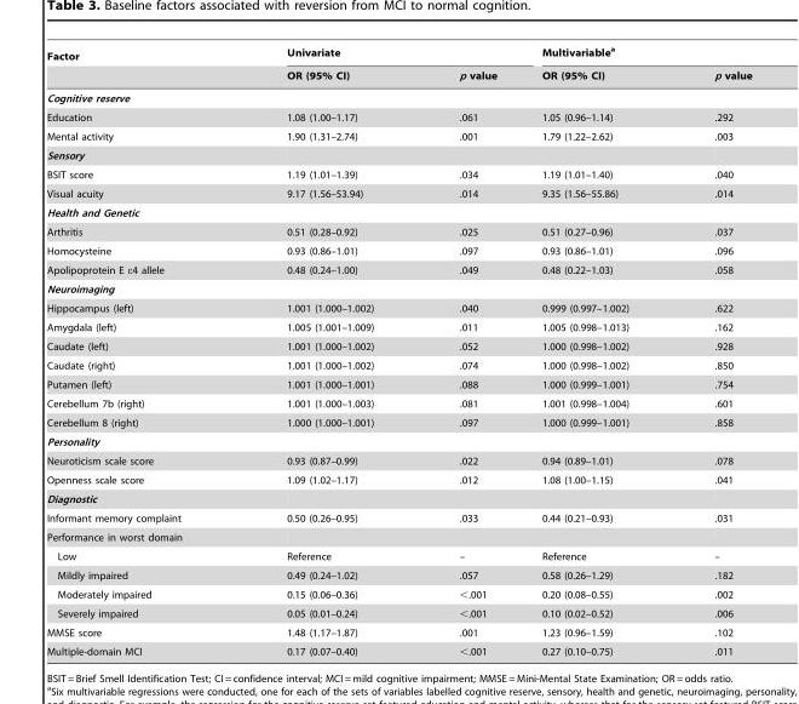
<table><thead><tr><td rowspan="2">Factor</td><td colspan="2">Univariate</td><td colspan="2">Multivariable<sup>a</sup></td></tr><tr><td>OR (95% CI)</td><td>p value</td><td>OR (95% CI)</td><td>p value</td></tr></thead><tbody><tr><td colspan="5">Cognitive reserve</td></tr><tr><td>Education</td><td>1.08 (1.00–1.17)</td><td>.061</td><td>1.05 (0.96–1.14)</td><td>.292</td></tr><tr><td>Mental activity</td><td>1.90 (1.31–2.74)</td><td>.001</td><td>1.79 (1.22–2.62)</td><td>.003</td></tr><tr><td colspan="5">Sensory</td></tr><tr><td>BSIT score</td><td>1.19 (1.01–1.39)</td><td>.034</td><td>1.19 (1.01–1.40)</td><td>.040</td></tr><tr><td>Visual acuity</td><td>9.17 (1.56–53.94)</td><td>.014</td><td>9.35 (1.56–55.86)</td><td>.014</td></tr><tr><td colspan="5">Health and Genetic</td></tr><tr><td>Arthritis</td><td>0.51 (0.28–0.92)</td><td>.025</td><td>0.51 (0.27–0.96)</td><td>.037</td></tr><tr><td>Homocysteine</td><td>0.93 (0.86–1.01)</td><td>.097</td><td>0.93 (0.86–1.01)</td><td>.096</td></tr><tr><td>Apolipoprotein E ε4 allele</td><td>0.48 (0.24–1.00)</td><td>.049</td><td>0.48 (0.22–1.03)</td><td>.058</td></tr><tr><td colspan="5">Neuroimaging</td></tr><tr><td>Hippocampus (left)</td><td>1.001 (1.000–1.002)</td><td>.040</td><td>0.999 (0.997–1.002)</td><td>.622</td></tr><tr><td>Amygdala (left)</td><td>1.005 (1.001–1.009)</td><td>.011</td><td>1.005 (0.998–1.013)</td><td>.162</td></tr><tr><td>Caudate (left)</td><td>1.001 (1.000–1.002)</td><td>.052</td><td>1.000 (0.998–1.002)</td><td>.928</td></tr><tr><td>Caudate (right)</td><td>1.001 (1.000–1.002)</td><td>.074</td><td>1.000 (0.998–1.002)</td><td>.850</td></tr><tr><td>Putamen (left)</td><td>1.001 (1.000–1.001)</td><td>.088</td><td>1.000 (0.999–1.001)</td><td>.754</td></tr><tr><td>Cerebellum 7b (right)</td><td>1.001 (1.000–1.003)</td><td>.081</td><td>1.001 (0.998–1.004)</td><td>.601</td></tr><tr><td>Cerebellum 8 (right)</td><td>1.000 (1.000–1.001)</td><td>.097</td><td>1.000 (0.999–1.001)</td><td>.858</td></tr><tr><td colspan="5">Personality</td></tr><tr><td>Neuroticism scale score</td><td>0.93 (0.87–0.99)</td><td>.022</td><td>0.94 (0.89–1.01)</td><td>.078</td></tr><tr><td>Openness scale score</td><td>1.09 (1.02–1.17)</td><td>.012</td><td>1.08 (1.00–1.15)</td><td>.041</td></tr><tr><td colspan="5">Diagnostic</td></tr><tr><td>Informant memory complaint</td><td>0.50 (0.26–0.95)</td><td>.033</td><td>0.44 (0.21–0.93)</td><td>.031</td></tr><tr><td colspan="5">Performance in worst domain</td></tr><tr><td>Low</td><td>Reference</td><td>–</td><td>Reference</td><td>–</td></tr><tr><td>Mildly impaired</td><td>0.49 (0.24–1.02)</td><td>.057</td><td>0.58 (0.26–1.29)</td><td>.182</td></tr><tr><td>Moderately impaired</td><td>0.15 (0.06–0.36)</td><td>&lt;.001</td><td>0.20 (0.08–0.55)</td><td>.002</td></tr><tr><td>Severely impaired</td><td>0.05 (0.01–0.24)</td><td>&lt;.001</td><td>0.10 (0.02–0.52)</td><td>.006</td></tr><tr><td>MMSE score</td><td>1.48 (1.17–1.87)</td><td>.001</td><td>1.23 (0.96–1.59)</td><td>.102</td></tr><tr><td>Multiple-domain MCI</td><td>0.17 (0.07–0.40)</td><td>&lt;.001</td><td>0.27 (0.10–0.75)</td><td>.011</td></tr></tbody></table>